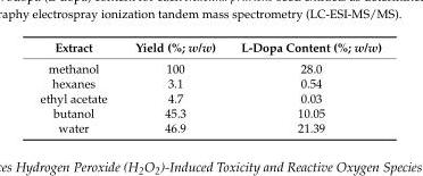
<table><thead><tr><td>Extract</td><td>Yield (%; w/w)</td><td>L-Dopa Content (%; w/w)</td></tr></thead><tbody><tr><td>methanol</td><td>100</td><td>28.0</td></tr><tr><td>hexanes</td><td>3.1</td><td>0.54</td></tr><tr><td>ethyl acetate</td><td>4.7</td><td>0.03</td></tr><tr><td>butanol</td><td>45.3</td><td>10.05</td></tr><tr><td>water</td><td>46.9</td><td>21.39</td></tr></tbody></table>